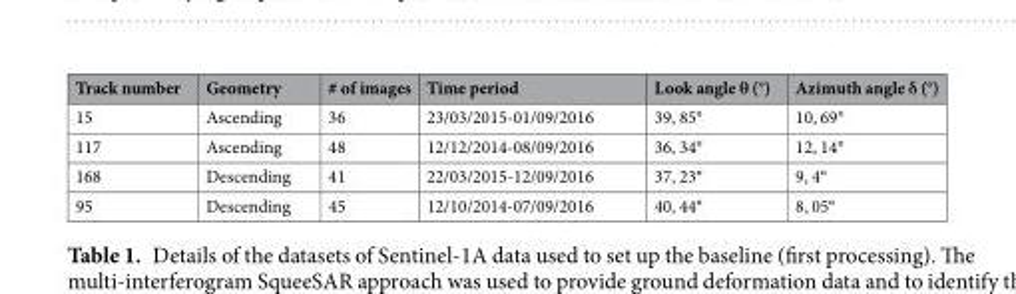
<table><thead><tr><td>Track number</td><td>Geometry</td><td># of images</td><td>Time period</td><td>Look angle θ (°)</td><td>Azimuth angle δ (°)</td></tr></thead><tbody><tr><td>15</td><td>Ascending</td><td>36</td><td>23/03/2015-01/09/2016</td><td>39, 85°</td><td>10, 69°</td></tr><tr><td>117</td><td>Ascending</td><td>48</td><td>12/12/2014-08/09/2016</td><td>36, 34°</td><td>12, 14°</td></tr><tr><td>168</td><td>Descending</td><td>41</td><td>22/03/2015-12/09/2016</td><td>37, 23°</td><td>9, 4°</td></tr><tr><td>95</td><td>Descending</td><td>45</td><td>12/10/2014-07/09/2016</td><td>40, 44°</td><td>8, 05°</td></tr></tbody></table>